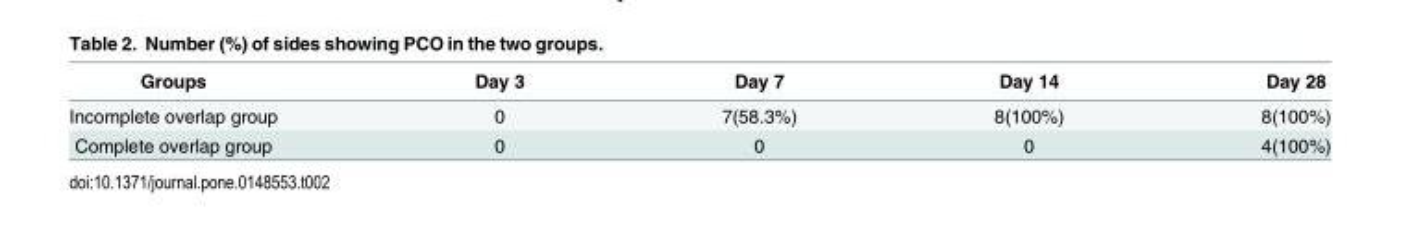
<table><thead><tr><td>Groups</td><td>Day 3</td><td>Day 7</td><td>Day 14</td><td>Day 28</td></tr></thead><tbody><tr><td>Incomplete overlap group</td><td>0</td><td>7(58.3%)</td><td>8(100%)</td><td>8(100%)</td></tr><tr><td>Complete overlap group</td><td>0</td><td>0</td><td>0</td><td>4(100%)</td></tr></tbody></table>